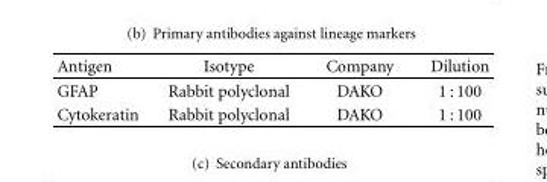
<table><thead><tr><td>Antigen</td><td>Isotype</td><td>Company</td><td>Dilution</td></tr></thead><tbody><tr><td>GFAP</td><td>Rabbit polyclonal</td><td>DAKO</td><td>1 : 100</td></tr><tr><td>Cytokeratin</td><td>Rabbit polyclonal</td><td>DAKO</td><td>1 : 100</td></tr></tbody></table>